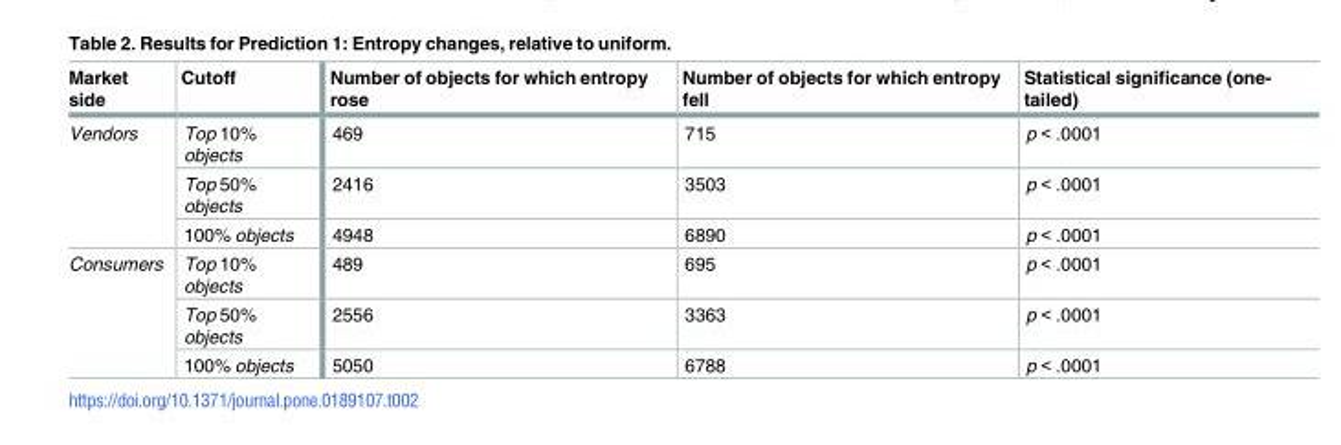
<table><thead><tr><td>Market side</td><td>Cutoff</td><td>Number of objects for which entropy rose</td><td>Number of objects for which entropy fell</td><td>Statistical significance (one- tailed)</td></tr></thead><tbody><tr><td rowspan="3">Vendors</td><td>Top 10% objects</td><td>469</td><td>715</td><td>p &lt; .0001</td></tr><tr><td>Top 50% objects</td><td>2416</td><td>3503</td><td>p &lt; .0001</td></tr><tr><td>100% objects</td><td>4948</td><td>6890</td><td>p &lt; .0001</td></tr><tr><td rowspan="3">Consumers</td><td>Top 10% objects</td><td>489</td><td>695</td><td>p &lt; .0001</td></tr><tr><td>Top 50% objects</td><td>2556</td><td>3363</td><td>p &lt; .0001</td></tr><tr><td>100% objects</td><td>5050</td><td>6788</td><td>p &lt; .0001</td></tr></tbody></table>